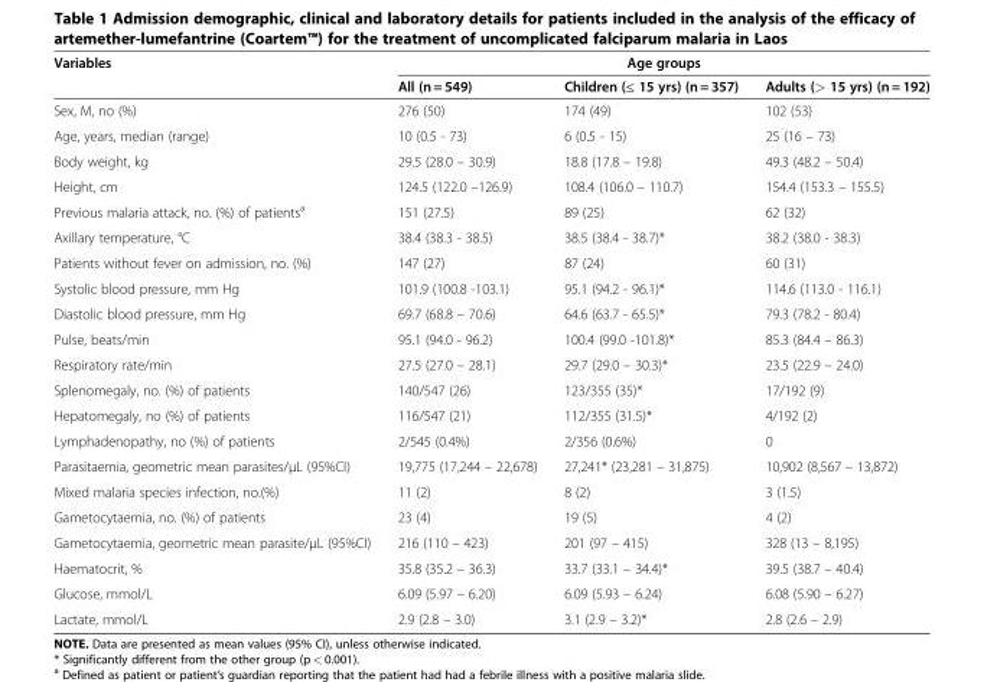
<table><thead><tr><td rowspan="2">Variables</td><td colspan="3">Age groups</td></tr><tr><td>All (n = 549)</td><td>Children (≤ 15 yrs) (n = 357)</td><td>Adults (&gt; 15 yrs) (n = 192)</td></tr></thead><tbody><tr><td>Sex, M, no (%)</td><td>276 (50)</td><td>174 (49)</td><td>102 (53)</td></tr><tr><td>Age, years, median (range)</td><td>10 (0.5 - 73)</td><td>6 (0.5 - 15)</td><td>25 (16 – 73)</td></tr><tr><td>Body weight, kg</td><td>29.5 (28.0 – 30.9)</td><td>18.8 (17.8 – 19.8)</td><td>49.3 (48.2 – 50.4)</td></tr><tr><td>Height, cm</td><td>124.5 (122.0 –126.9)</td><td>108.4 (106.0 – 110.7)</td><td>154.4 (153.3 – 155.5)</td></tr><tr><td>Previous malaria attack, no. (%) of patients<sup>a</sup></td><td>151 (27.5)</td><td>89 (25)</td><td>62 (32)</td></tr><tr><td>Axillary temperature, °C</td><td>38.4 (38.3 - 38.5)</td><td>38.5 (38.4 - 38.7)*</td><td>38.2 (38.0 - 38.3)</td></tr><tr><td>Patients without fever on admission, no. (%)</td><td>147 (27)</td><td>87 (24)</td><td>60 (31)</td></tr><tr><td>Systolic blood pressure, mm Hg</td><td>101.9 (100.8 -103.1)</td><td>95.1 (94.2 - 96.1)*</td><td>114.6 (113.0 - 116.1)</td></tr><tr><td>Diastolic blood pressure, mm Hg</td><td>69.7 (68.8 – 70.6)</td><td>64.6 (63.7 - 65.5)*</td><td>79.3 (78.2 - 80.4)</td></tr><tr><td>Pulse, beats/min</td><td>95.1 (94.0 - 96.2)</td><td>100.4 (99.0 -101.8)*</td><td>85.3 (84.4 – 86.3)</td></tr><tr><td>Respiratory rate/min</td><td>27.5 (27.0 – 28.1)</td><td>29.7 (29.0 – 30.3)*</td><td>23.5 (22.9 – 24.0)</td></tr><tr><td>Splenomegaly, no. (%) of patients</td><td>140/547 (26)</td><td>123/355 (35)*</td><td>17/192 (9)</td></tr><tr><td>Hepatomegaly, no (%) of patients</td><td>116/547 (21)</td><td>112/355 (31.5)*</td><td>4/192 (2)</td></tr><tr><td>Lymphadenopathy, no (%) of patients</td><td>2/545 (0.4%)</td><td>2/356 (0.6%)</td><td>0</td></tr><tr><td>Parasitaemia, geometric mean parasites/μL (95%CI)</td><td>19,775 (17,244 – 22,678)</td><td>27,241* (23,281 – 31,875)</td><td>10,902 (8,567 – 13,872)</td></tr><tr><td>Mixed malaria species infection, no.(%)</td><td>11 (2)</td><td>8 (2)</td><td>3 (1.5)</td></tr><tr><td>Gametocytaemia, no. (%) of patients</td><td>23 (4)</td><td>19 (5)</td><td>4 (2)</td></tr><tr><td>Gametocytaemia, geometric mean parasite/μL (95%CI)</td><td>216 (110 – 423)</td><td>201 (97 – 415)</td><td>328 (13 – 8,195)</td></tr><tr><td>Haematocrit, %</td><td>35.8 (35.2 – 36.3)</td><td>33.7 (33.1 – 34.4)*</td><td>39.5 (38.7 – 40.4)</td></tr><tr><td>Glucose, mmol/L</td><td>6.09 (5.97 – 6.20)</td><td>6.09 (5.93 – 6.24)</td><td>6.08 (5.90 – 6.27)</td></tr><tr><td>Lactate, mmol/L</td><td>2.9 (2.8 – 3.0)</td><td>3.1 (2.9 – 3.2)*</td><td>2.8 (2.6 – 2.9)</td></tr></tbody></table>